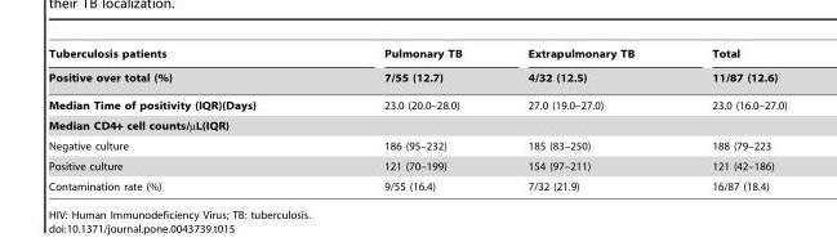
<table><thead><tr><td rowspan="2">Tuberculosis patients Positive over total (%)</td><td rowspan="2">Pulmonary TB 7/55 (12.7)</td><td rowspan="2">Extrapulmonary TB 4/32 (12.5)</td><td rowspan="2">Total 11/87 (12.6)</td></tr><tr></tr></thead><tbody><tr><td>Median Time of positivity (IQR)(Days)</td><td>23.0 (20.0–28.0)</td><td>27.0 (19.0–27.0)</td><td>23.0 (16.0–27.0)</td></tr><tr><td colspan="4">Median CD4+ cell counts/µL(IQR)</td></tr><tr><td>Negative culture</td><td>186 (95–232)</td><td>185 (83–250)</td><td>188 (79–223</td></tr><tr><td>Positive culture</td><td>121 (70–199)</td><td>154 (97–211)</td><td>121 (42–186)</td></tr><tr><td>Contamination rate (%)</td><td>9/55 (16.4)</td><td>7/32 (21.9)</td><td>16/87 (18.4)</td></tr></tbody></table>